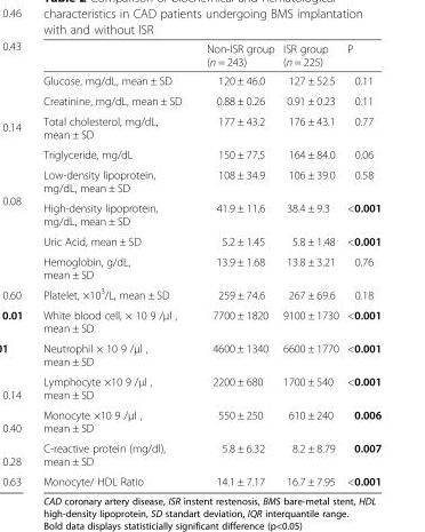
<table><thead><tr><td></td><td>Non-ISR group (n = 243)</td><td>ISR group (n = 225)</td><td>P</td></tr></thead><tbody><tr><td>Glucose, mg/dL, mean ± SD</td><td>120 ± 46.0</td><td>127 ± 52.5</td><td>0.11</td></tr><tr><td>Creatinine, mg/dL, mean ± SD</td><td>0.88 ± 0.26</td><td>0.91 ± 0.23</td><td>0.11</td></tr><tr><td>Total cholesterol, mg/dL, mean ± SD</td><td>177 ± 43.2</td><td>176 ± 43.1</td><td>0.77</td></tr><tr><td>Triglyceride, mg/dL</td><td>150 ± 77.5</td><td>164 ± 84.0</td><td>0.06</td></tr><tr><td>Low-density lipoprotein, mg/dL, mean ± SD</td><td>108 ± 34.9</td><td>106 ± 39.0</td><td>0.58</td></tr><tr><td>High-density lipoprotein, mg/dL, mean ± SD</td><td>41.9 ± 11,6</td><td>38.4 ± 9.3</td><td>&lt;0.001</td></tr><tr><td>Uric Acid, mean ± SD</td><td>5.2 ± 1.45</td><td>5.8 ± 1.48</td><td>&lt;0.001</td></tr><tr><td>Hemoglobin, g/dL, mean ± SD</td><td>13.9 ± 1.68</td><td>13.8 ± 3.21</td><td>0.76</td></tr><tr><td>Platelet, ×10<sup>3</sup>/L, mean ± SD</td><td>259 ± 74.6</td><td>267 ± 69.6</td><td>0.18</td></tr><tr><td>White blood cell, × 10 9 /μl , mean ± SD</td><td>7700 ± 1820</td><td>9100 ± 1730</td><td>&lt;0.001</td></tr><tr><td>Neutrophil × 10 9 /μl , mean ± SD</td><td>4600 ± 1340</td><td>6600 ± 1770</td><td>&lt;0.001</td></tr><tr><td>Lymphocyte ×10 9 /μl , mean ± SD</td><td>2200 ± 680</td><td>1700 ± 540</td><td>&lt;0.001</td></tr><tr><td>Monocyte ×10 9 /μl , mean ± SD</td><td>550 ± 250</td><td>610 ± 240</td><td>0.006</td></tr><tr><td>C-reactive protein (mg/dl), mean ± SD</td><td>5.8 ± 6.32</td><td>8.2 ± 8.79</td><td>0.007</td></tr><tr><td>Monocyte/ HDL Ratio</td><td>14.1 ± 7.17</td><td>16.7 ± 7.95</td><td>&lt;0.001</td></tr></tbody></table>